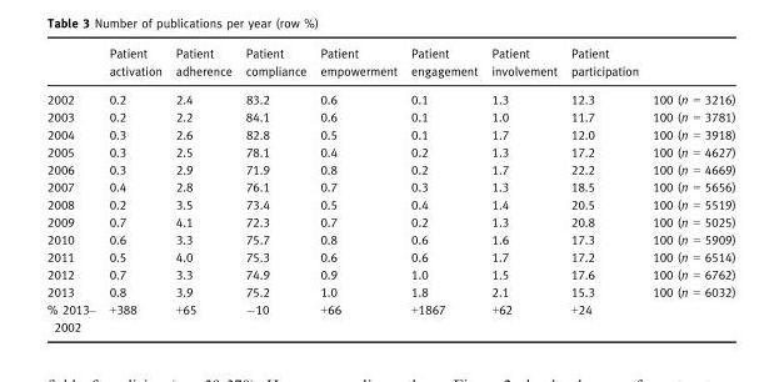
<table><thead><tr><td></td><td>Patient activation</td><td>Patient adherence</td><td>Patient compliance</td><td>Patient empowerment</td><td>Patient engagement</td><td>Patient involvement</td><td>Patient participation</td><td></td></tr></thead><tbody><tr><td>2002</td><td>0.2</td><td>2.4</td><td>83.2</td><td>0.6</td><td>0.1</td><td>1.3</td><td>12.3</td><td>100 (n = 3216)</td></tr><tr><td>2003</td><td>0.2</td><td>2.2</td><td>84.1</td><td>0.6</td><td>0.1</td><td>1.0</td><td>11.7</td><td>100 (n = 3781)</td></tr><tr><td>2004</td><td>0.3</td><td>2.6</td><td>82.8</td><td>0.5</td><td>0.1</td><td>1.7</td><td>12.0</td><td>100 (n = 3918)</td></tr><tr><td>2005</td><td>0.3</td><td>2.5</td><td>78.1</td><td>0.4</td><td>0.2</td><td>1.3</td><td>17.2</td><td>100 (n = 4627)</td></tr><tr><td>2006</td><td>0.3</td><td>2.9</td><td>71.9</td><td>0.8</td><td>0.2</td><td>1.7</td><td>22.2</td><td>100 (n = 4669)</td></tr><tr><td>2007</td><td>0.4</td><td>2.8</td><td>76.1</td><td>0.7</td><td>0.3</td><td>1.3</td><td>18.5</td><td>100 (n = 5656)</td></tr><tr><td>2008</td><td>0.2</td><td>3.5</td><td>73.4</td><td>0.5</td><td>0.4</td><td>1.4</td><td>20.5</td><td>100 (n = 5519)</td></tr><tr><td>2009</td><td>0.7</td><td>4.1</td><td>72.3</td><td>0.7</td><td>0.2</td><td>1.3</td><td>20.8</td><td>100 (n = 5025)</td></tr><tr><td>2010</td><td>0.6</td><td>3.3</td><td>75.7</td><td>0.8</td><td>0.6</td><td>1.6</td><td>17.3</td><td>100 (n = 5909)</td></tr><tr><td>2011</td><td>0.5</td><td>4.0</td><td>75.3</td><td>0.6</td><td>0.6</td><td>1.7</td><td>17.2</td><td>100 (n = 6514)</td></tr><tr><td>2012</td><td>0.7</td><td>3.3</td><td>74.9</td><td>0.9</td><td>1.0</td><td>1.5</td><td>17.6</td><td>100 (n = 6762)</td></tr><tr><td>2013</td><td>0.8</td><td>3.9</td><td>75.2</td><td>1.0</td><td>1.8</td><td>2.1</td><td>15.3</td><td>100 (n = 6032)</td></tr><tr><td>% 2013– 2002</td><td>+388</td><td>+65</td><td>−10</td><td>+66</td><td>+1867</td><td>+62</td><td>+24</td><td></td></tr></tbody></table>